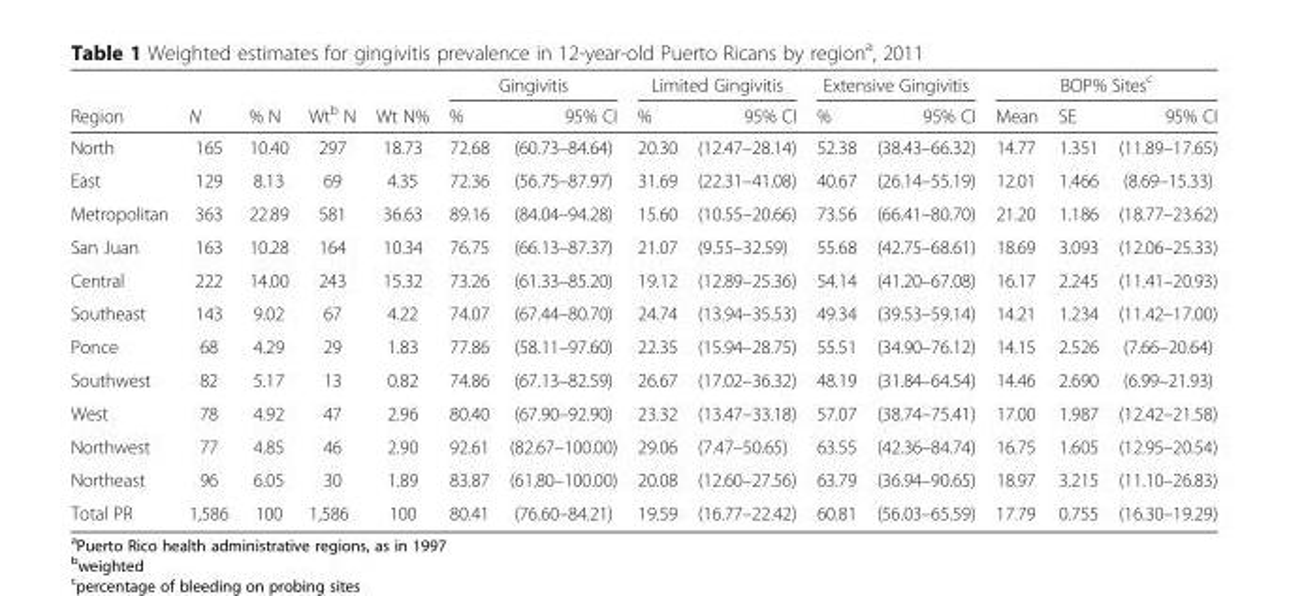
<table><thead><tr><td rowspan="2">Region</td><td rowspan="2">N</td><td rowspan="2">% N</td><td rowspan="2">Wt<sup>b</sup> N</td><td rowspan="2">Wt N%</td><td colspan="2">Gingivitis</td><td colspan="2">Limited Gingivitis</td><td colspan="2">Extensive Gingivitis</td><td colspan="3">BOP% Sites<sup>c</sup></td></tr><tr><td>%</td><td>95% CI</td><td>%</td><td>95% CI</td><td>%</td><td>95% CI</td><td>Mean</td><td>SE</td><td>95% CI</td></tr></thead><tbody><tr><td>North</td><td>165</td><td>10.40</td><td>297</td><td>18.73</td><td>72.68</td><td>(60.73–84.64)</td><td>20.30</td><td>(12.47–28.14)</td><td>52.38</td><td>(38.43–66.32)</td><td>14.77</td><td>1.351</td><td>(11.89–17.65)</td></tr><tr><td>East</td><td>129</td><td>8.13</td><td>69</td><td>4.35</td><td>72.36</td><td>(56.75–87.97)</td><td>31.69</td><td>(22.31–41.08)</td><td>40.67</td><td>(26.14–55.19)</td><td>12.01</td><td>1.466</td><td>(8.69–15.33)</td></tr><tr><td>Metropolitan</td><td>363</td><td>22.89</td><td>581</td><td>36.63</td><td>89.16</td><td>(84.04–94.28)</td><td>15.60</td><td>(10.55–20.66)</td><td>73.56</td><td>(66.41–80.70)</td><td>21.20</td><td>1.186</td><td>(18.77–23.62)</td></tr><tr><td>San Juan</td><td>163</td><td>10.28</td><td>164</td><td>10.34</td><td>76.75</td><td>(66.13–87.37)</td><td>21.07</td><td>(9.55–32.59)</td><td>55.68</td><td>(42.75–68.61)</td><td>18.69</td><td>3.093</td><td>(12.06–25.33)</td></tr><tr><td>Central</td><td>222</td><td>14.00</td><td>243</td><td>15.32</td><td>73.26</td><td>(61.33–85.20)</td><td>19.12</td><td>(12.89–25.36)</td><td>54.14</td><td>(41.20–67.08)</td><td>16.17</td><td>2.245</td><td>(11.41–20.93)</td></tr><tr><td>Southeast</td><td>143</td><td>9.02</td><td>67</td><td>4.22</td><td>74.07</td><td>(67.44–80.70)</td><td>24.74</td><td>(13.94–35.53)</td><td>49.34</td><td>(39.53–59.14)</td><td>14.21</td><td>1.234</td><td>(11.42–17.00)</td></tr><tr><td>Ponce</td><td>68</td><td>4.29</td><td>29</td><td>1.83</td><td>77.86</td><td>(58.11–97.60)</td><td>22.35</td><td>(15.94–28.75)</td><td>55.51</td><td>(34.90–76.12)</td><td>14.15</td><td>2.526</td><td>(7.66–20.64)</td></tr><tr><td>Southwest</td><td>82</td><td>5.17</td><td>13</td><td>0.82</td><td>74.86</td><td>(67.13–82.59)</td><td>26.67</td><td>(17.02–36.32)</td><td>48.19</td><td>(31.84–64.54)</td><td>14.46</td><td>2.690</td><td>(6.99–21.93)</td></tr><tr><td>West</td><td>78</td><td>4.92</td><td>47</td><td>2.96</td><td>80.40</td><td>(67.90–92.90)</td><td>23.32</td><td>(13.47–33.18)</td><td>57.07</td><td>(38.74–75.41)</td><td>17.00</td><td>1.987</td><td>(12.42–21.58)</td></tr><tr><td>Northwest</td><td>77</td><td>4.85</td><td>46</td><td>2.90</td><td>92.61</td><td>(82.67–100.00)</td><td>29.06</td><td>(7.47–50.65)</td><td>63.55</td><td>(42.36–84.74)</td><td>16.75</td><td>1.605</td><td>(12.95–20.54)</td></tr><tr><td>Northeast</td><td>96</td><td>6.05</td><td>30</td><td>1.89</td><td>83.87</td><td>(61.80–100.00)</td><td>20.08</td><td>(12.60–27.56)</td><td>63.79</td><td>(36.94–90.65)</td><td>18.97</td><td>3.215</td><td>(11.10–26.83)</td></tr><tr><td>Total PR</td><td>1,586</td><td>100</td><td>1,586</td><td>100</td><td>80.41</td><td>(76.60–84.21)</td><td>19.59</td><td>(16.77–22.42)</td><td>60.81</td><td>(56.03–65.59)</td><td>17.79</td><td>0.755</td><td>(16.30–19.29)</td></tr></tbody></table>